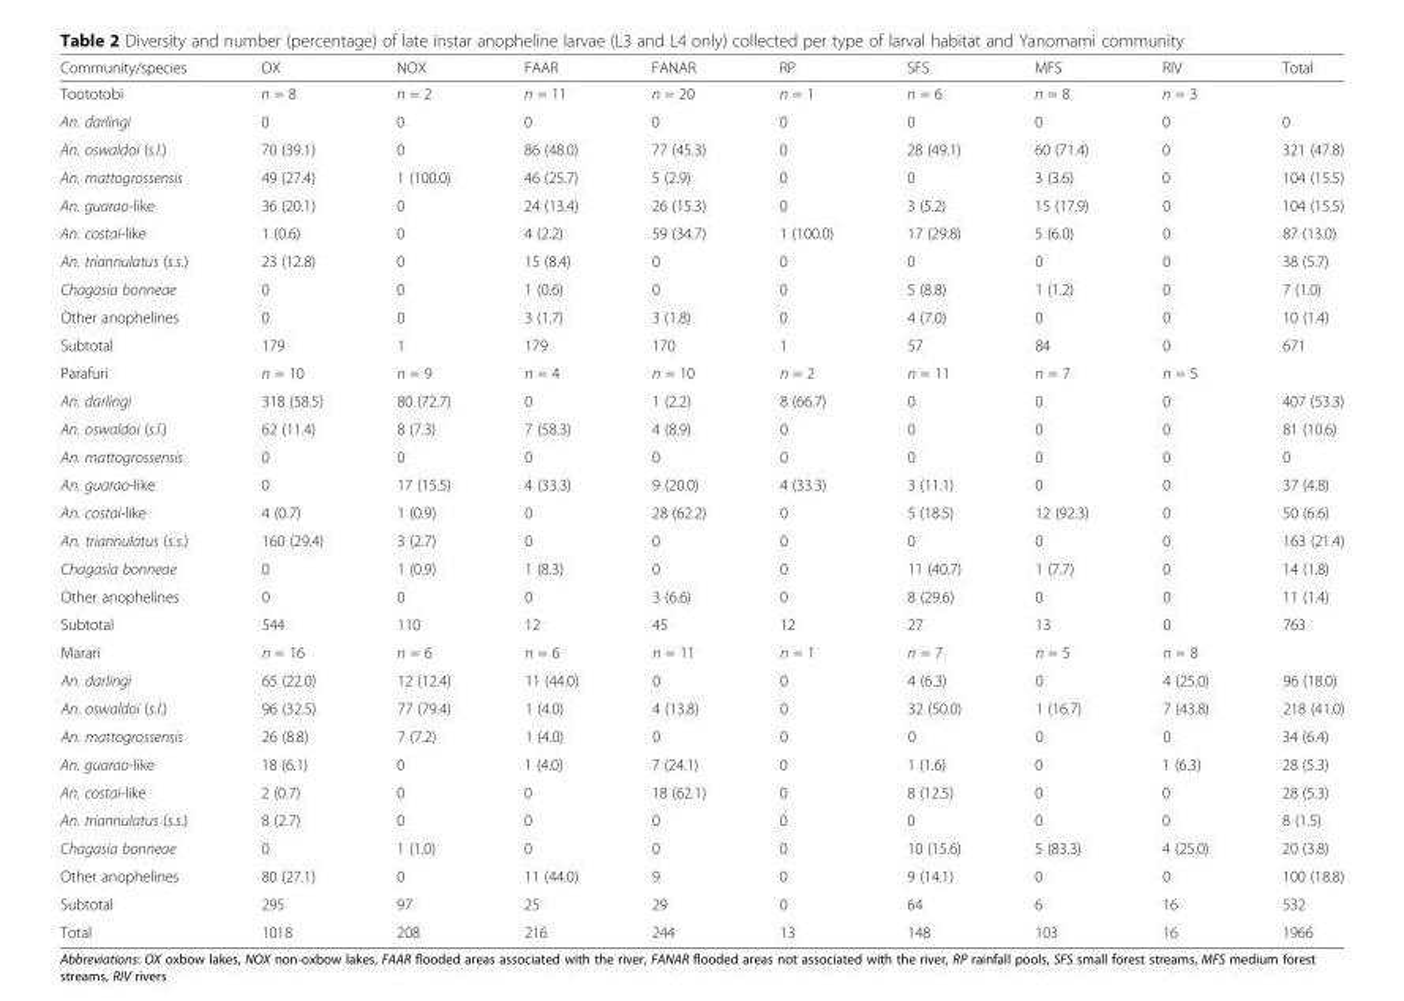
<table><thead><tr><td>Community/species</td><td>OX</td><td>NOX</td><td>FAAR</td><td>FANAR</td><td>RP</td><td>SFS</td><td>MFS</td><td>RIV</td><td>Total</td></tr></thead><tbody><tr><td>Toototobi</td><td>n = 8</td><td>n = 2</td><td>n = 11</td><td>n = 20</td><td>n = 1</td><td>n = 6</td><td>n = 8</td><td>n = 3</td><td></td></tr><tr><td>An. darlingi</td><td>0</td><td>0</td><td>0</td><td>0</td><td>0</td><td>0</td><td>0</td><td>0</td><td>0</td></tr><tr><td>An. oswaldoi (s.l.)</td><td>70 (39.1)</td><td>0</td><td>86 (48.0)</td><td>77 (45.3)</td><td>0</td><td>28 (49.1)</td><td>60 (71.4)</td><td>0</td><td>321 (47.8)</td></tr><tr><td>An. mattogrossensis</td><td>49 (27.4)</td><td>1 (100.0)</td><td>46 (25.7)</td><td>5 (2.9)</td><td>0</td><td>0</td><td>3 (3.6)</td><td>0</td><td>104 (15.5)</td></tr><tr><td>An. guarao-like</td><td>36 (20.1)</td><td>0</td><td>24 (13.4)</td><td>26 (15.3)</td><td>0</td><td>3 (5.2)</td><td>15 (17.9)</td><td>0</td><td>104 (15.5)</td></tr><tr><td>An. costai-like</td><td>1 (0.6)</td><td>0</td><td>4 (2.2)</td><td>59 (34.7)</td><td>1 (100.0)</td><td>17 (29.8)</td><td>5 (6.0)</td><td>0</td><td>87 (13.0)</td></tr><tr><td>An. triannulatus (s.s.)</td><td>23 (12.8)</td><td>0</td><td>15 (8.4)</td><td>0</td><td>0</td><td>0</td><td>0</td><td>0</td><td>38 (5.7)</td></tr><tr><td>Chagasia bonneae</td><td>0</td><td>0</td><td>1 (0.6)</td><td>0</td><td>0</td><td>5 (8.8)</td><td>1 (1.2)</td><td>0</td><td>7 (1.0)</td></tr><tr><td>Other anophelines</td><td>0</td><td>0</td><td>3 (1.7)</td><td>3 (1.8)</td><td>0</td><td>4 (7.0)</td><td>0</td><td>0</td><td>10 (1.4)</td></tr><tr><td>Subtotal</td><td>179</td><td>1</td><td>179</td><td>170</td><td>1</td><td>57</td><td>84</td><td>0</td><td>671</td></tr><tr><td>Parafuri</td><td>n = 10</td><td>n = 9</td><td>n = 4</td><td>n = 10</td><td>n = 2</td><td>n = 11</td><td>n = 7</td><td>n = 5</td><td></td></tr><tr><td>An. darlingi</td><td>318 (58.5)</td><td>80 (72.7)</td><td>0</td><td>1 (2.2)</td><td>8 (66.7)</td><td>0</td><td>0</td><td>0</td><td>407 (53.3)</td></tr><tr><td>An. oswaldoi (s.l.)</td><td>62 (11.4)</td><td>8 (7.3)</td><td>7 (58.3)</td><td>4 (8.9)</td><td>0</td><td>0</td><td>0</td><td>0</td><td>81 (10.6)</td></tr><tr><td>An. mattogrossensis</td><td>0</td><td>0</td><td>0</td><td>0</td><td>0</td><td>0</td><td>0</td><td>0</td><td>0</td></tr><tr><td>An. guarao-like</td><td>0</td><td>17 (15.5)</td><td>4 (33.3)</td><td>9 (20.0)</td><td>4 (33.3)</td><td>3 (11.1)</td><td>0</td><td>0</td><td>37 (4.8)</td></tr><tr><td>An. costai-like</td><td>4 (0.7)</td><td>1 (0.9)</td><td>0</td><td>28 (62.2)</td><td>0</td><td>5 (18.5)</td><td>12 (92.3)</td><td>0</td><td>50 (6.6)</td></tr><tr><td>An. triannulatus (s.s.)</td><td>160 (29.4)</td><td>3 (2.7)</td><td>0</td><td>0</td><td>0</td><td>0</td><td>0</td><td>0</td><td>163 (21.4)</td></tr><tr><td>Chagasia bonneae</td><td>0</td><td>1 (0.9)</td><td>1 (8.3)</td><td>0</td><td>0</td><td>11 (40.7)</td><td>1 (7.7)</td><td>0</td><td>14 (1.8)</td></tr><tr><td>Other anophelines</td><td>0</td><td>0</td><td>0</td><td>3 (6.6)</td><td>0</td><td>8 (29.6)</td><td>0</td><td>0</td><td>11 (1.4)</td></tr><tr><td>Subtotal</td><td>544</td><td>110</td><td>12</td><td>45</td><td>12</td><td>27</td><td>13</td><td>0</td><td>763</td></tr><tr><td>Marari</td><td>n = 16</td><td>n = 6</td><td>n = 6</td><td>n = 11</td><td>n = 1</td><td>n = 7</td><td>n = 5</td><td>n = 8</td><td></td></tr><tr><td>An. darlingi</td><td>65 (22.0)</td><td>12 (12.4)</td><td>11 (44.0)</td><td>0</td><td>0</td><td>4 (6.3)</td><td>0</td><td>4 (25.0)</td><td>96 (18.0)</td></tr><tr><td>An. oswaldoi (s.l.)</td><td>96 (32.5)</td><td>77 (79.4)</td><td>1 (4.0)</td><td>4 (13.8)</td><td>0</td><td>32 (50.0)</td><td>1 (16.7)</td><td>7 (43.8)</td><td>218 (41.0)</td></tr><tr><td>An. mattogrossensis</td><td>26 (8.8)</td><td>7 (7.2)</td><td>1 (4.0)</td><td>0</td><td>0</td><td>0</td><td>0</td><td>0</td><td>34 (6.4)</td></tr><tr><td>An. guarao-like</td><td>18 (6.1)</td><td>0</td><td>1 (4.0)</td><td>7 (24.1)</td><td>0</td><td>1 (1.6)</td><td>0</td><td>1 (6.3)</td><td>28 (5.3)</td></tr><tr><td>An. costai-like</td><td>2 (0.7)</td><td>0</td><td>0</td><td>18 (62.1)</td><td>0</td><td>8 (12.5)</td><td>0</td><td>0</td><td>28 (5.3)</td></tr><tr><td>An. triannulatus (s.s.)</td><td>8 (2.7)</td><td>0</td><td>0</td><td>0</td><td>0</td><td>0</td><td>0</td><td>0</td><td>8 (1.5)</td></tr><tr><td>Chagasia bonneae</td><td>0</td><td>1 (1.0)</td><td>0</td><td>0</td><td>0</td><td>10 (15.6)</td><td>5 (83.3)</td><td>4 (25.0)</td><td>20 (3.8)</td></tr><tr><td>Other anophelines</td><td>80 (27.1)</td><td>0</td><td>11 (44.0)</td><td>9</td><td>0</td><td>9 (14.1)</td><td>0</td><td>0</td><td>100 (18.8)</td></tr><tr><td>Subtotal</td><td>295</td><td>97</td><td>25</td><td>29</td><td>0</td><td>64</td><td>6</td><td>16</td><td>532</td></tr><tr><td>Total</td><td>1018</td><td>208</td><td>216</td><td>244</td><td>13</td><td>148</td><td>103</td><td>16</td><td>1966</td></tr></tbody></table>